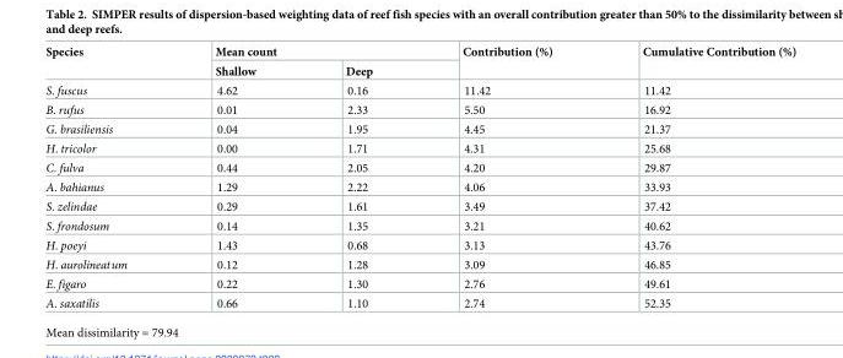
<table><thead><tr><td rowspan="2">Species</td><td colspan="2">Mean count</td><td rowspan="2">Contribution (%)</td><td rowspan="2">Cumulative Contribution (%)</td></tr><tr><td>Shallow</td><td>Deep</td></tr></thead><tbody><tr><td>S. fuscus</td><td>4.62</td><td>0.16</td><td>11.42</td><td>11.42</td></tr><tr><td>B. rufus</td><td>0.01</td><td>2.33</td><td>5.50</td><td>16.92</td></tr><tr><td>G. brasiliensis</td><td>0.04</td><td>1.95</td><td>4.45</td><td>21.37</td></tr><tr><td>H. tricolor</td><td>0.00</td><td>1.71</td><td>4.31</td><td>25.68</td></tr><tr><td>C. fulva</td><td>0.44</td><td>2.05</td><td>4.20</td><td>29.87</td></tr><tr><td>A. bahianus</td><td>1.29</td><td>2.22</td><td>4.06</td><td>33.93</td></tr><tr><td>S. zelindae</td><td>0.29</td><td>1.61</td><td>3.49</td><td>37.42</td></tr><tr><td>S. frondosum</td><td>0.14</td><td>1.35</td><td>3.21</td><td>40.62</td></tr><tr><td>H. poeyi</td><td>1.43</td><td>0.68</td><td>3.13</td><td>43.76</td></tr><tr><td>H. aurolineatum</td><td>0.12</td><td>1.28</td><td>3.09</td><td>46.85</td></tr><tr><td>E. figaro</td><td>0.22</td><td>1.30</td><td>2.76</td><td>49.61</td></tr><tr><td>A. saxatilis</td><td>0.66</td><td>1.10</td><td>2.74</td><td>52.35</td></tr></tbody></table>